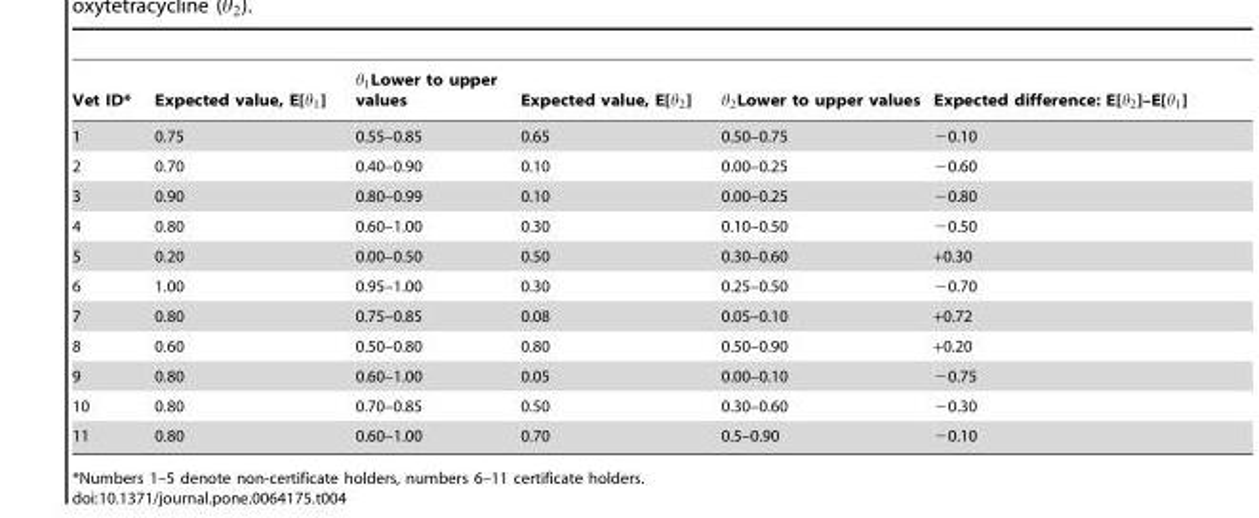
<table><thead><tr><td>Vet ID*</td><td>Expected value, E[h1]</td><td>h1Lower to upper values</td><td>Expected value, E[h2]</td><td>h2Lower to upper values</td><td>Expected difference: E[h2]–E[h1]</td></tr></thead><tbody><tr><td>1</td><td>0.75</td><td>0.55–0.85</td><td>0.65</td><td>0.50–0.75</td><td>−0.10</td></tr><tr><td>2</td><td>0.70</td><td>0.40–0.90</td><td>0.10</td><td>0.00–0.25</td><td>−0.60</td></tr><tr><td>3</td><td>0.90</td><td>0.80–0.99</td><td>0.10</td><td>0.00–0.25</td><td>−0.80</td></tr><tr><td>4</td><td>0.80</td><td>0.60–1.00</td><td>0.30</td><td>0.10–0.50</td><td>−0.50</td></tr><tr><td>5</td><td>0.20</td><td>0.00–0.50</td><td>0.50</td><td>0.30–0.60</td><td>+0.30</td></tr><tr><td>6</td><td>1.00</td><td>0.95–1.00</td><td>0.30</td><td>0.25–0.50</td><td>−0.70</td></tr><tr><td>7</td><td>0.80</td><td>0.75–0.85</td><td>0.08</td><td>0.05–0.10</td><td>+0.72</td></tr><tr><td>8</td><td>0.60</td><td>0.50–0.80</td><td>0.80</td><td>0.50–0.90</td><td>+0.20</td></tr><tr><td>9</td><td>0.80</td><td>0.60–1.00</td><td>0.05</td><td>0.00–0.10</td><td>−0.75</td></tr><tr><td>10</td><td>0.80</td><td>0.70–0.85</td><td>0.50</td><td>0.30–0.60</td><td>−0.30</td></tr><tr><td>11</td><td>0.80</td><td>0.60–1.00</td><td>0.70</td><td>0.5–0.90</td><td>−0.10</td></tr></tbody></table>